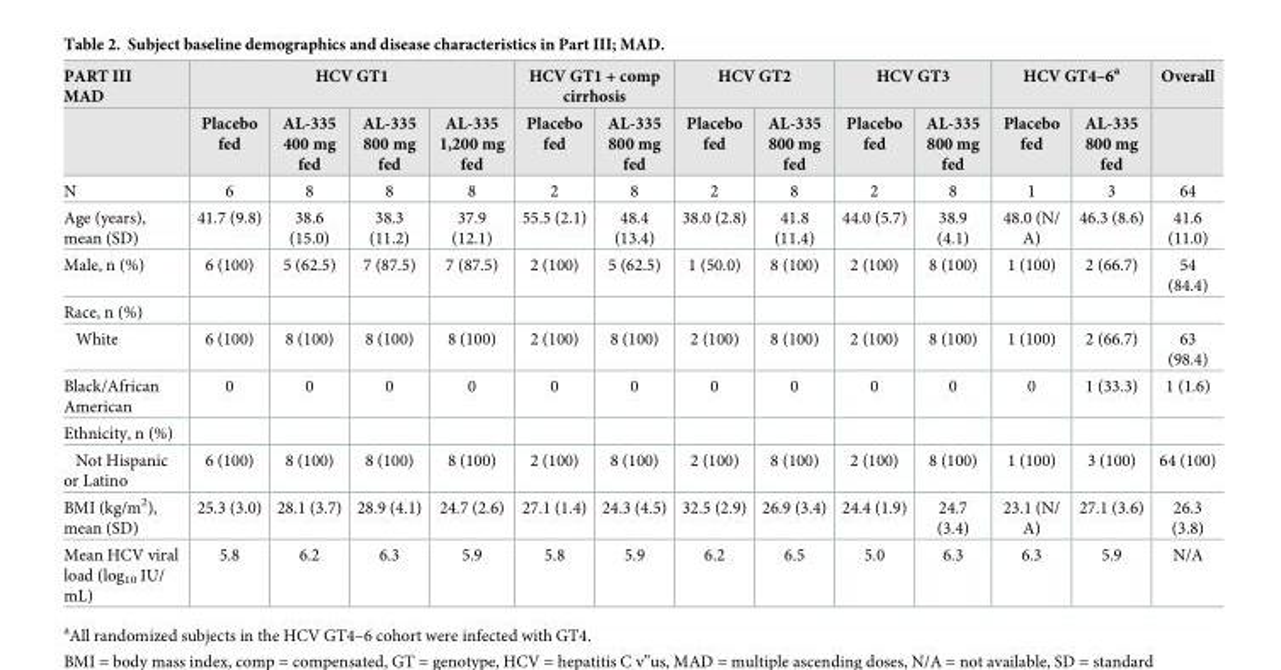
<table><thead><tr><td rowspan="2">PART III MAD</td><td colspan="4">HCV GT1</td><td colspan="2">HCV GT1 + comp cirrhosis</td><td colspan="2">HCV GT2</td><td colspan="2">HCV GT3</td><td colspan="2">HCV GT4–6<sup>a</sup></td><td rowspan="2">Overall</td></tr><tr><td>Placebo fed</td><td>AL-335 400 mg fed</td><td>AL-335 800 mg fed</td><td>AL-335 1,200 mg fed</td><td>Placebo fed</td><td>AL-335 800 mg fed</td><td>Placebo fed</td><td>AL-335 800 mg fed</td><td>Placebo fed</td><td>AL-335 800 mg fed</td><td>Placebo fed</td><td>AL-335 800 mg fed</td></tr></thead><tbody><tr><td>N</td><td>6</td><td>8</td><td>8</td><td>8</td><td>2</td><td>8</td><td>2</td><td>8</td><td>2</td><td>8</td><td>1</td><td>3</td><td>64</td></tr><tr><td>Age (years), mean (SD)</td><td>41.7 (9.8)</td><td>38.6 (15.0)</td><td>38.3 (11.2)</td><td>37.9 (12.1)</td><td>55.5 (2.1)</td><td>48.4 (13.4)</td><td>38.0 (2.8)</td><td>41.8 (11.4)</td><td>44.0 (5.7)</td><td>38.9 (4.1)</td><td>48.0 (N/ A)</td><td>46.3 (8.6)</td><td>41.6 (11.0)</td></tr><tr><td>Male, n (%)</td><td>6 (100)</td><td>5 (62.5)</td><td>7 (87.5)</td><td>7 (87.5)</td><td>2 (100)</td><td>5 (62.5)</td><td>1 (50.0)</td><td>8 (100)</td><td>2 (100)</td><td>8 (100)</td><td>1 (100)</td><td>2 (66.7)</td><td>54 (84.4)</td></tr><tr><td colspan="14">Race, n (%)</td></tr><tr><td>White</td><td>6 (100)</td><td>8 (100)</td><td>8 (100)</td><td>8 (100)</td><td>2 (100)</td><td>8 (100)</td><td>2 (100)</td><td>8 (100)</td><td>2 (100)</td><td>8 (100)</td><td>1 (100)</td><td>2 (66.7)</td><td>63 (98.4)</td></tr><tr><td>Black/African American</td><td>0</td><td>0</td><td>0</td><td>0</td><td>0</td><td>0</td><td>0</td><td>0</td><td>0</td><td>0</td><td>0</td><td>1 (33.3)</td><td>1 (1.6)</td></tr><tr><td colspan="14">Ethnicity, n (%)</td></tr><tr><td>Not Hispanic or Latino</td><td>6 (100)</td><td>8 (100)</td><td>8 (100)</td><td>8 (100)</td><td>2 (100)</td><td>8 (100)</td><td>2 (100)</td><td>8 (100)</td><td>2 (100)</td><td>8 (100)</td><td>1 (100)</td><td>3 (100)</td><td>64 (100)</td></tr><tr><td>BMI (kg/m<sup>2</sup>), mean (SD)</td><td>25.3 (3.0)</td><td>28.1 (3.7)</td><td>28.9 (4.1)</td><td>24.7 (2.6)</td><td>27.1 (1.4)</td><td>24.3 (4.5)</td><td>32.5 (2.9)</td><td>26.9 (3.4)</td><td>24.4 (1.9)</td><td>24.7 (3.4)</td><td>23.1 (N/ A)</td><td>27.1 (3.6)</td><td>26.3 (3.8)</td></tr><tr><td>Mean HCV viral load (log<sub>10</sub> IU/ mL)</td><td>5.8</td><td>6.2</td><td>6.3</td><td>5.9</td><td>5.8</td><td>5.9</td><td>6.2</td><td>6.5</td><td>5.0</td><td>6.3</td><td>6.3</td><td>5.9</td><td>N/A</td></tr></tbody></table>